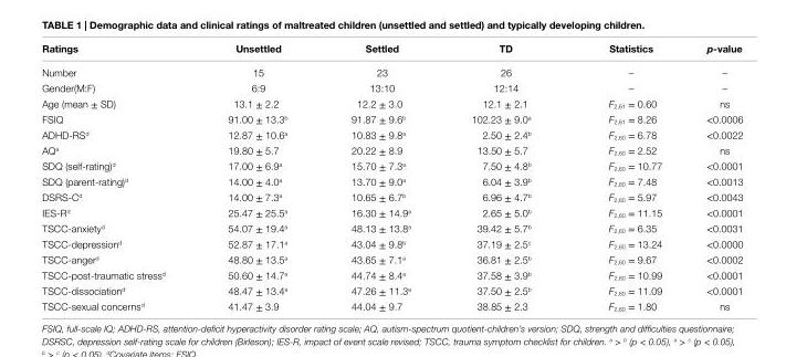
<table><thead><tr><td>ratings</td><td>Unsettled</td><td>settled</td><td>TD</td><td>statistics</td><td>p-value</td></tr></thead><tbody><tr><td>Number</td><td>15</td><td>23</td><td>26</td><td>–</td><td>–</td></tr><tr><td>Gender(M:F)</td><td>6:9</td><td>13:10</td><td>12:14</td><td>–</td><td>–</td></tr><tr><td>Age (mean ± SD)</td><td>13.1 ± 2.2</td><td>12.2 ± 3.0</td><td>12.1 ± 2.1</td><td>F<sub>2,61</sub> = 0.60</td><td>ns</td></tr><tr><td>FSIQ</td><td>91.00 ± 13.3<sup>b</sup></td><td>91.87 ± 9.6<sup>b</sup></td><td>102.23 ± 9.0<sup>a</sup></td><td>F<sub>2,61</sub> = 8.26</td><td>&lt;0.0006</td></tr><tr><td>ADHD-RS<sup>d</sup></td><td>12.87 ± 10.6<sup>a</sup></td><td>10.83 ± 9.8<sup>a</sup></td><td>2.50 ± 2.4<sup>b</sup></td><td>F<sub>2,60</sub> = 6.78</td><td>&lt;0.0022</td></tr><tr><td>AQ<sup>a</sup></td><td>19.80 ± 5.7</td><td>20.22 ± 8.9</td><td>13.50 ± 5.7</td><td>F<sub>2,60</sub> = 2.52</td><td>ns</td></tr><tr><td>SDQ (self-rating)<sup>d</sup></td><td>17.00 ± 6.9<sup>a</sup></td><td>15.70 ± 7.3<sup>a</sup></td><td>7.50 ± 4.8<sup>b</sup></td><td>F<sub>2,60</sub> = 10.77</td><td>&lt;0.0001</td></tr><tr><td>SDQ (parent-rating)<sup>d</sup></td><td>14.00 ± 4.0<sup>a</sup></td><td>13.70 ± 9.0<sup>a</sup></td><td>6.04 ± 3.9<sup>b</sup></td><td>F<sub>2,60</sub> = 7.48</td><td>&lt;0.0013</td></tr><tr><td>DSRS-C<sup>d</sup></td><td>14.00 ± 7.3<sup>a</sup></td><td>10.65 ± 6.7<sup>b</sup></td><td>6.96 ± 4.7<sup>b</sup></td><td>F<sub>2,60</sub> = 5.97</td><td>&lt;0.0043</td></tr><tr><td>IES-R<sup>d</sup></td><td>25.47 ± 25.5<sup>a</sup></td><td>16.30 ± 14.9<sup>a</sup></td><td>2.65 ± 5.0<sup>b</sup></td><td>F<sub>2,60</sub> = 11.15</td><td>&lt;0.0001</td></tr><tr><td>TSCC-anxiety<sup>d</sup></td><td>54.07 ± 19.4<sup>a</sup></td><td>48.13 ± 13.8<sup>a</sup></td><td>39.42 ± 5.7<sup>b</sup></td><td>F<sub>2,60</sub> = 6.35</td><td>&lt;0.0031</td></tr><tr><td>TSCC-depression<sup>d</sup></td><td>52.87 ± 17.1<sup>a</sup></td><td>43.04 ± 9.8<sup>b</sup></td><td>37.19 ± 2.5<sup>c</sup></td><td>F<sub>2,60</sub> = 13.24</td><td>&lt;0.0000</td></tr><tr><td>TSCC-anger<sup>d</sup></td><td>48.80 ± 13.5<sup>a</sup></td><td>43.65 ± 7.1<sup>a</sup></td><td>36.81 ± 2.5<sup>b</sup></td><td>F<sub>2,60</sub> = 9.67</td><td>&lt;0.0002</td></tr><tr><td>TSCC-post-traumatic stress<sup>d</sup></td><td>50.60 ± 14.7<sup>a</sup></td><td>44.74 ± 8.4<sup>a</sup></td><td>37.58 ± 3.9<sup>b</sup></td><td>F<sub>2,60</sub> = 10.99</td><td>&lt;0.0001</td></tr><tr><td>TSCC-dissociation<sup>d</sup></td><td>48.47 ± 13.4<sup>a</sup></td><td>47.26 ± 11.3<sup>a</sup></td><td>37.50 ± 2.5<sup>b</sup></td><td>F<sub>2,60</sub> = 11.09</td><td>&lt;0.0001</td></tr><tr><td>TSCC-sexual concerns<sup>d</sup></td><td>41.47 ± 3.9</td><td>44.04 ± 9.7</td><td>38.85 ± 2.3</td><td>F<sub>2,60</sub> = 1.80</td><td>ns</td></tr></tbody></table>